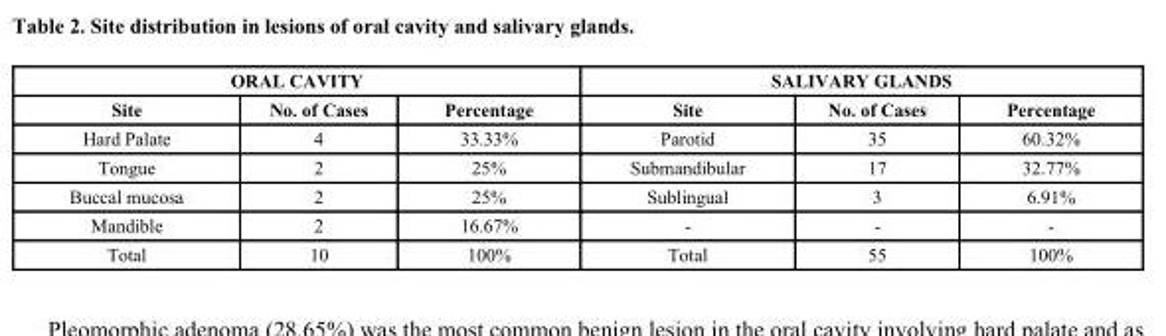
<table><thead><tr><td colspan="3">ORAL CAVITY</td><td colspan="3">SALIVARY GLANDS</td></tr><tr><td>Site</td><td>No. of Cases</td><td>Percentage</td><td>Site</td><td>No. of Cases</td><td>Percentage</td></tr></thead><tbody><tr><td>Hard Palate</td><td>4</td><td>33.33%</td><td>Parotid</td><td>35</td><td>60.32%</td></tr><tr><td>Tongue</td><td>2</td><td>25%</td><td>Submandibular</td><td>17</td><td>32.77%</td></tr><tr><td>Buccal mucosa</td><td>2</td><td>25%</td><td>Sublingual</td><td>3</td><td>6.91%</td></tr><tr><td>Mandible</td><td>2</td><td>16.67%</td><td>-</td><td>-</td><td>-</td></tr><tr><td>Total</td><td>10</td><td>100%</td><td>Total</td><td>55</td><td>100%</td></tr></tbody></table>